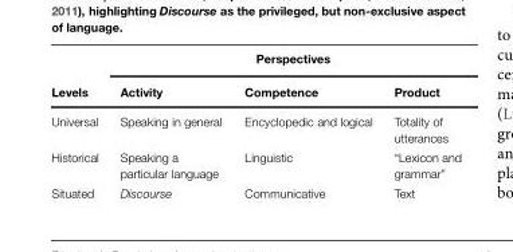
<table><thead><tr><td rowspan="2">Levels</td><td colspan="3">Perspectives</td></tr><tr><td>Activity</td><td>Competence</td><td>Product</td></tr></thead><tbody><tr><td>Universal</td><td>Speaking in general</td><td>Encyclopedic and logical</td><td>Totality of utterances</td></tr><tr><td>Historical</td><td>Speaking a particular language</td><td>Linguistic</td><td>“Lexicon and grammar”</td></tr><tr><td>Situated</td><td>Discourse</td><td>Communicative</td><td>Text</td></tr></tbody></table>